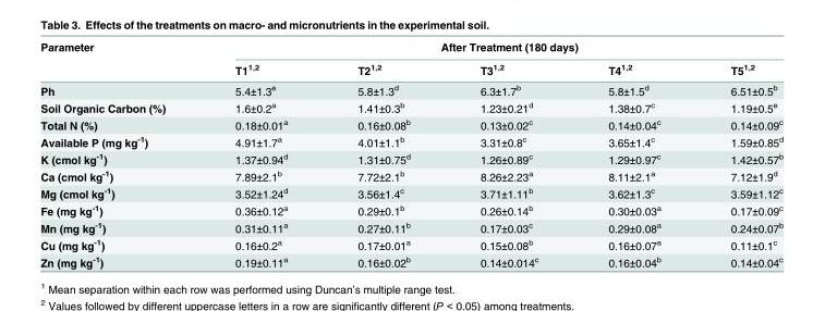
<table><thead><tr><td rowspan="2">Parameter</td><td colspan="5">After Treatment (180 days)</td></tr><tr><td>T1<sup>1,2</sup></td><td>T2<sup>1,2</sup></td><td>T3<sup>1,2</sup></td><td>T4<sup>1,2</sup></td><td>T5<sup>1,2</sup></td></tr></thead><tbody><tr><td>Ph</td><td>5.4±1.3<sup>e</sup></td><td>5.8±1.3<sup>d</sup></td><td>6.3±1.7<sup>b</sup></td><td>5.8±1.5<sup>d</sup></td><td>6.51±0.5<sup>b</sup></td></tr><tr><td>Soil Organic Carbon (%)</td><td>1.6±0.2<sup>a</sup></td><td>1.41±0.3<sup>b</sup></td><td>1.23±0.21<sup>d</sup></td><td>1.38±0.7<sup>c</sup></td><td>1.19±0.5<sup>e</sup></td></tr><tr><td>Total N (%)</td><td>0.18±0.01<sup>a</sup></td><td>0.16±0.08<sup>b</sup></td><td>0.13±0.02<sup>c</sup></td><td>0.14±0.04<sup>c</sup></td><td>0.14±0.09<sup>c</sup></td></tr><tr><td>Available P (mg kg<sup>-1</sup>)</td><td>4.91±1.7<sup>a</sup></td><td>4.01±1.1<sup>b</sup></td><td>3.31±0.8<sup>c</sup></td><td>3.65±1.4<sup>c</sup></td><td>1.59±0.85<sup>d</sup></td></tr><tr><td>K (cmol kg<sup>-1</sup>)</td><td>1.37±0.94<sup>d</sup></td><td>1.31±0.75<sup>d</sup></td><td>1.26±0.89<sup>c</sup></td><td>1.29±0.97<sup>c</sup></td><td>1.42±0.57<sup>b</sup></td></tr><tr><td>Ca (cmol kg<sup>-1</sup>)</td><td>7.89±2.1<sup>b</sup></td><td>7.72±2.1<sup>b</sup></td><td>8.26±2.23<sup>a</sup></td><td>8.11±2.1<sup>a</sup></td><td>7.12±1.9<sup>d</sup></td></tr><tr><td>Mg (cmol kg<sup>-1</sup>)</td><td>3.52±1.24<sup>d</sup></td><td>3.56±1.4<sup>c</sup></td><td>3.71±1.11<sup>b</sup></td><td>3.62±1.3<sup>c</sup></td><td>3.59±1.12<sup>c</sup></td></tr><tr><td>Fe (mg kg<sup>-1</sup>)</td><td>0.36±0.12<sup>a</sup></td><td>0.29±0.1<sup>b</sup></td><td>0.26±0.14<sup>b</sup></td><td>0.30±0.03<sup>a</sup></td><td>0.17±0.09<sup>c</sup></td></tr><tr><td>Mn (mg kg<sup>-1</sup>)</td><td>0.31±0.11<sup>a</sup></td><td>0.27±0.11<sup>b</sup></td><td>0.17±0.03<sup>c</sup></td><td>0.29±0.08<sup>a</sup></td><td>0.24±0.07<sup>b</sup></td></tr><tr><td>Cu (mg kg<sup>-1</sup>)</td><td>0.16±0.2<sup>a</sup></td><td>0.17±0.01<sup>a</sup></td><td>0.15±0.08<sup>b</sup></td><td>0.16±0.07<sup>a</sup></td><td>0.11±0.1<sup>c</sup></td></tr><tr><td>Zn (mg kg<sup>-1</sup>)</td><td>0.19±0.11<sup>a</sup></td><td>0.16±0.02<sup>b</sup></td><td>0.14±0.014<sup>c</sup></td><td>0.16±0.04<sup>b</sup></td><td>0.14±0.04<sup>c</sup></td></tr></tbody></table>